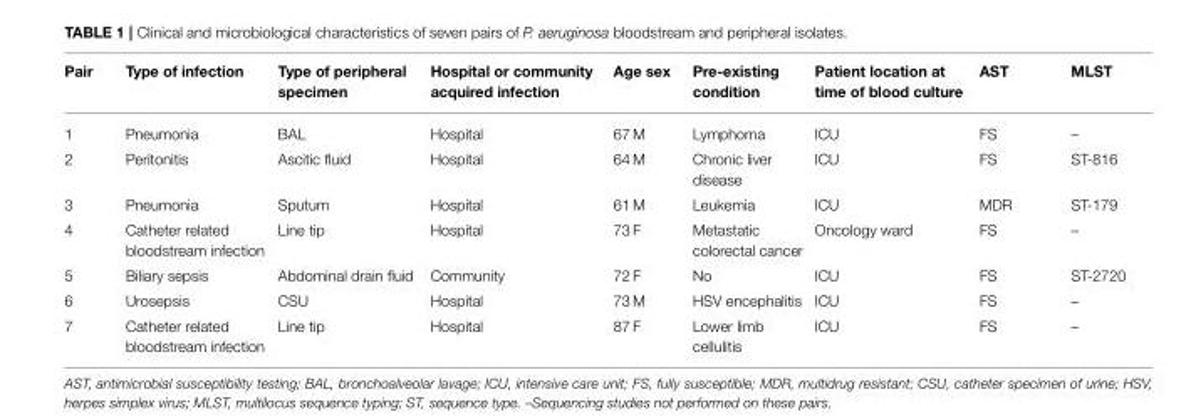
<table><thead><tr><td>Pair</td><td>Type of infection</td><td>Type of peripheral specimen</td><td>Hospital or community acquired infection</td><td>Age sex</td><td>Pre-existing condition</td><td>Patient location at time of blood culture</td><td>AST</td><td>MLST</td></tr></thead><tbody><tr><td>1</td><td>Pneumonia</td><td>BAL</td><td>Hospital</td><td>67 M</td><td>Lymphoma</td><td>ICU</td><td>FS</td><td>–</td></tr><tr><td>2</td><td>Peritonitis</td><td>Ascitic fluid</td><td>Hospital</td><td>64 M</td><td>Chronic liver disease</td><td>ICU</td><td>FS</td><td>ST-816</td></tr><tr><td>3</td><td>Pneumonia</td><td>Sputum</td><td>Hospital</td><td>61 M</td><td>Leukemia</td><td>ICU</td><td>MDR</td><td>ST-179</td></tr><tr><td>4</td><td>Catheter related bloodstream infection</td><td>Line tip</td><td>Hospital</td><td>73 F</td><td>Metastatic colorectal cancer</td><td>Oncology ward</td><td>FS</td><td>–</td></tr><tr><td>5</td><td>Biliary sepsis</td><td>Abdominal drain fluid</td><td>Community</td><td>72 F</td><td>No</td><td>ICU</td><td>FS</td><td>ST-2720</td></tr><tr><td>6</td><td>Urosepsis</td><td>CSU</td><td>Hospital</td><td>73 M</td><td>HSV encephalitis</td><td>ICU</td><td>FS</td><td>–</td></tr><tr><td>7</td><td>Catheter related bloodstream infection</td><td>Line tip</td><td>Hospital</td><td>87 F</td><td>Lower limb cellulitis</td><td>ICU</td><td>FS</td><td>–</td></tr></tbody></table>